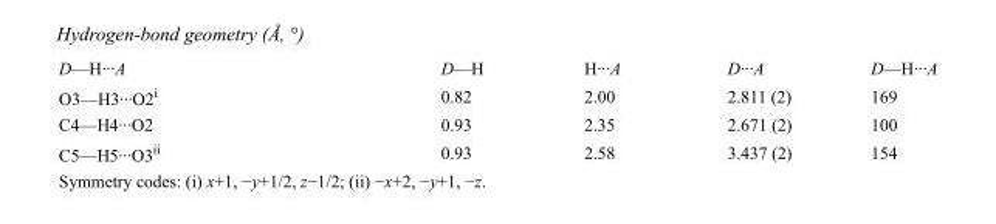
<table><tbody><tr><td>D—H···A</td><td>D—H</td><td>H···A</td><td>D···A</td><td>D—H···A</td></tr><tr><td>O3—H3···O2<sup>i</sup></td><td>0.82</td><td>2.00</td><td>2.811 (2)</td><td>169</td></tr><tr><td>C4—H4···O2</td><td>0.93</td><td>2.35</td><td>2.671 (2)</td><td>100</td></tr><tr><td>C5—H5···O3<sup>ii</sup></td><td>0.93</td><td>2.58</td><td>3.437 (2)</td><td>154</td></tr></tbody></table>